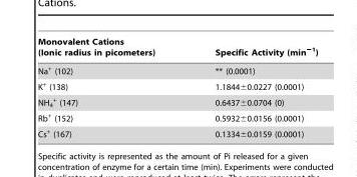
<table><thead><tr><td>Monovalent Cations (Ionic radius in picometers)</td><td>Specific Activity (min<sup>−1</sup>)</td></tr></thead><tbody><tr><td>Na<sup>+</sup> (102)</td><td>** (0.0001)</td></tr><tr><td>K<sup>+</sup> (138)</td><td>1.1844±0.0227 (0.0001)</td></tr><tr><td>NH<sub>4</sub> <sup>+</sup> (147)</td><td>0.6437±0.0704 (0)</td></tr><tr><td>Rb<sup>+</sup> (152)</td><td>0.5932±0.0156 (0.0001)</td></tr><tr><td>Cs<sup>+</sup> (167)</td><td>0.1334±0.0159 (0.0001)</td></tr></tbody></table>